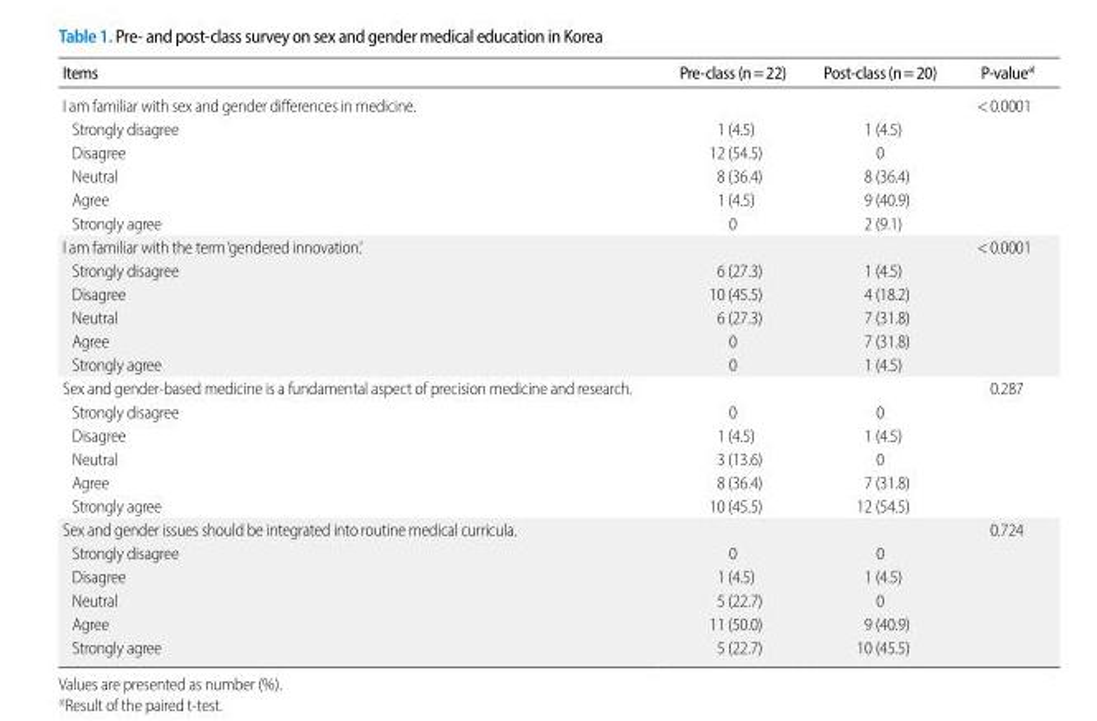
<table><thead><tr><td>Items</td><td>Pre-class (n=22)</td><td>Post-class (n=20)</td><td>P-value<sup>a)</sup></td></tr></thead><tbody><tr><td>I am familiar with sex and gender differences in medicine.</td><td></td><td></td><td>&lt;0.0001</td></tr><tr><td>Strongly disagree</td><td>1 (4.5)</td><td>1 (4.5)</td><td></td></tr><tr><td>Disagree</td><td>12 (54.5)</td><td>0</td><td></td></tr><tr><td>Neutral</td><td>8 (36.4)</td><td>8 (36.4)</td><td></td></tr><tr><td>Agree</td><td>1 (4.5)</td><td>9 (40.9)</td><td></td></tr><tr><td>Strongly agree</td><td>0</td><td>2 (9.1)</td><td></td></tr><tr><td>I am familiar with the term ‘gendered innovation.’</td><td></td><td></td><td>&lt;0.0001</td></tr><tr><td>Strongly disagree</td><td>6 (27.3)</td><td>1 (4.5)</td><td></td></tr><tr><td>Disagree</td><td>10 (45.5)</td><td>4 (18.2)</td><td></td></tr><tr><td>Neutral</td><td>6 (27.3)</td><td>7 (31.8)</td><td></td></tr><tr><td>Agree</td><td>0</td><td>7 (31.8)</td><td></td></tr><tr><td>Strongly agree</td><td>0</td><td>1 (4.5)</td><td></td></tr><tr><td>Sex and gender-based medicine is a fundamental aspect of precision medicine and research.</td><td></td><td></td><td>0.287</td></tr><tr><td>Strongly disagree</td><td>0</td><td>0</td><td></td></tr><tr><td>Disagree</td><td>1 (4.5)</td><td>1 (4.5)</td><td></td></tr><tr><td>Neutral</td><td>3 (13.6)</td><td>0</td><td></td></tr><tr><td>Agree</td><td>8 (36.4)</td><td>7 (31.8)</td><td></td></tr><tr><td>Strongly agree</td><td>10 (45.5)</td><td>12 (54.5)</td><td></td></tr><tr><td>Sex and gender issues should be integrated into routine medical curricula.</td><td></td><td></td><td>0.724</td></tr><tr><td>Strongly disagree</td><td>0</td><td>0</td><td></td></tr><tr><td>Disagree</td><td>1 (4.5)</td><td>1 (4.5)</td><td></td></tr><tr><td>Neutral</td><td>5 (22.7)</td><td>0</td><td></td></tr><tr><td>Agree</td><td>11 (50.0)</td><td>9 (40.9)</td><td></td></tr><tr><td>Strongly agree</td><td>5 (22.7)</td><td>10 (45.5)</td><td></td></tr></tbody></table>